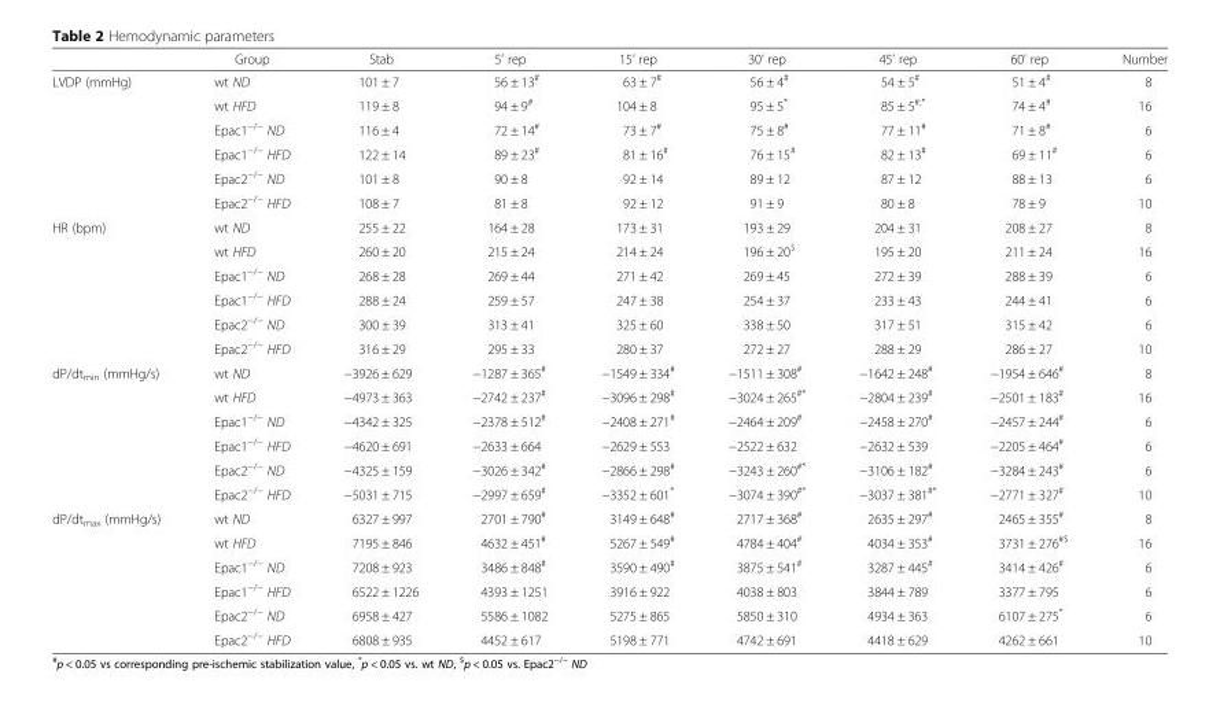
<table><thead><tr><td></td><td>Group</td><td>Stab</td><td>5’ rep</td><td>15’ rep</td><td>30’ rep</td><td>45’ rep</td><td>60’ rep</td><td>Number</td></tr></thead><tbody><tr><td rowspan="6">LVDP (mmHg)</td><td>wt ND</td><td>101 ± 7</td><td>56 ± 13<sup>#</sup></td><td>63 ± 7<sup>#</sup></td><td>56 ± 4<sup>#</sup></td><td>54 ± 5<sup>#</sup></td><td>51 ± 4<sup>#</sup></td><td>8</td></tr><tr><td>wt HFD</td><td>119 ± 8</td><td>94 ± 9<sup>#</sup></td><td>104 ± 8</td><td>95 ± 5*</td><td>85 ± 5<sup>#,*</sup></td><td>74 ± 4<sup>#</sup></td><td>16</td></tr><tr><td>Epac1<sup>−/−</sup> ND</td><td>116 ± 4</td><td>72 ± 14<sup>#</sup></td><td>73 ± 7<sup>#</sup></td><td>75 ± 8<sup>#</sup></td><td>77 ± 11<sup>#</sup></td><td>71 ± 8<sup>#</sup></td><td>6</td></tr><tr><td>Epac1<sup>−/−</sup> HFD</td><td>122 ± 14</td><td>89 ± 23<sup>#</sup></td><td>81 ± 16<sup>#</sup></td><td>76 ± 15<sup>#</sup></td><td>82 ± 13<sup>#</sup></td><td>69 ± 11<sup>#</sup></td><td>6</td></tr><tr><td>Epac2<sup>−/−</sup> ND</td><td>101 ± 8</td><td>90 ± 8</td><td>92 ± 14</td><td>89 ± 12</td><td>87 ± 12</td><td>88 ± 13</td><td>6</td></tr><tr><td>Epac2<sup>−/−</sup> HFD</td><td>108 ± 7</td><td>81 ± 8</td><td>92 ± 12</td><td>91 ± 9</td><td>80 ± 8</td><td>78 ± 9</td><td>10</td></tr><tr><td rowspan="6">HR (bpm)</td><td>wt ND</td><td>255 ± 22</td><td>164 ± 28</td><td>173 ± 31</td><td>193 ± 29</td><td>204 ± 31</td><td>208 ± 27</td><td>8</td></tr><tr><td>wt HFD</td><td>260 ± 20</td><td>215 ± 24</td><td>214 ± 24</td><td>196 ± 20<sup>$</sup></td><td>195 ± 20</td><td>211 ± 24</td><td>16</td></tr><tr><td>Epac1<sup>−/−</sup> ND</td><td>268 ± 28</td><td>269 ± 44</td><td>271 ± 42</td><td>269 ± 45</td><td>272 ± 39</td><td>288 ± 39</td><td>6</td></tr><tr><td>Epac1<sup>−/−</sup> HFD</td><td>288 ± 24</td><td>259 ± 57</td><td>247 ± 38</td><td>254 ± 37</td><td>233 ± 43</td><td>244 ± 41</td><td>6</td></tr><tr><td>Epac2<sup>−/−</sup> ND</td><td>300 ± 39</td><td>313 ± 41</td><td>325 ± 60</td><td>338 ± 50</td><td>317 ± 51</td><td>315 ± 42</td><td>6</td></tr><tr><td>Epac2<sup>−/−</sup> HFD</td><td>316 ± 29</td><td>295 ± 33</td><td>280 ± 37</td><td>272 ± 27</td><td>288 ± 29</td><td>286 ± 27</td><td>10</td></tr><tr><td rowspan="6">dP/dt<sub>min</sub> (mmHg/s)</td><td>wt ND</td><td>−3926 ± 629</td><td>−1287 ± 365<sup>#</sup></td><td>−1549 ± 334<sup>#</sup></td><td>−1511 ± 308<sup>#</sup></td><td>−1642 ± 248<sup>#</sup></td><td>−1954 ± 646<sup>#</sup></td><td>8</td></tr><tr><td>wt HFD</td><td>−4973 ± 363</td><td>−2742 ± 237<sup>#</sup></td><td>−3096 ± 298<sup>#</sup></td><td>−3024 ± 265<sup>#*</sup></td><td>−2804 ± 239<sup>#</sup></td><td>−2501 ± 183<sup>#</sup></td><td>16</td></tr><tr><td>Epac1<sup>−/−</sup> ND</td><td>−4342 ± 325</td><td>−2378 ± 512<sup>#</sup></td><td>−2408 ± 271<sup>#</sup></td><td>−2464 ± 209<sup>#</sup></td><td>−2458 ± 270<sup>#</sup></td><td>−2457 ± 244<sup>#</sup></td><td>6</td></tr><tr><td>Epac1<sup>−/−</sup> HFD</td><td>−4620 ± 691</td><td>−2633 ± 664</td><td>−2629 ± 553</td><td>−2522 ± 632</td><td>−2632 ± 539</td><td>−2205 ± 464<sup>#</sup></td><td>6</td></tr><tr><td>Epac2<sup>−/−</sup> ND</td><td>−4325 ± 159</td><td>−3026 ± 342<sup>#</sup></td><td>−2866 ± 298<sup>#</sup></td><td>−3243 ± 260<sup>#*</sup></td><td>−3106 ± 182<sup>#</sup></td><td>−3284 ± 243<sup>#</sup></td><td>6</td></tr><tr><td>Epac2<sup>−/−</sup> HFD</td><td>−5031 ± 715</td><td>−2997 ± 659<sup>#</sup></td><td>−3352 ± 601*</td><td>−3074 ± 390<sup>#*</sup></td><td>−3037 ± 381<sup>#*</sup></td><td>−2771 ± 327<sup>#</sup></td><td>10</td></tr><tr><td rowspan="6">dP/dt<sub>max</sub> (mmHg/s)</td><td>wt ND</td><td>6327 ± 997</td><td>2701 ± 790<sup>#</sup></td><td>3149 ± 648<sup>#</sup></td><td>2717 ± 368<sup>#</sup></td><td>2635 ± 297<sup>#</sup></td><td>2465 ± 355<sup>#</sup></td><td>8</td></tr><tr><td>wt HFD</td><td>7195 ± 846</td><td>4632 ± 451<sup>#</sup></td><td>5267 ± 549<sup>#</sup></td><td>4784 ± 404<sup>#</sup></td><td>4034 ± 353<sup>#</sup></td><td>3731 ± 276<sup>#$</sup></td><td>16</td></tr><tr><td>Epac1<sup>−/−</sup> ND</td><td>7208 ± 923</td><td>3486 ± 848<sup>#</sup></td><td>3590 ± 490<sup>#</sup></td><td>3875 ± 541<sup>#</sup></td><td>3287 ± 445<sup>#</sup></td><td>3414 ± 426<sup>#</sup></td><td>6</td></tr><tr><td>Epac1<sup>−/−</sup> HFD</td><td>6522 ± 1226</td><td>4393 ± 1251</td><td>3916 ± 922</td><td>4038 ± 803</td><td>3844 ± 789</td><td>3377 ± 795</td><td>6</td></tr><tr><td>Epac2<sup>−/−</sup> ND</td><td>6958 ± 427</td><td>5586 ± 1082</td><td>5275 ± 865</td><td>5850 ± 310</td><td>4934 ± 363</td><td>6107 ± 275*</td><td>6</td></tr><tr><td>Epac2<sup>−/−</sup> HFD</td><td>6808 ± 935</td><td>4452 ± 617</td><td>5198 ± 771</td><td>4742 ± 691</td><td>4418 ± 629</td><td>4262 ± 661</td><td>10</td></tr></tbody></table>